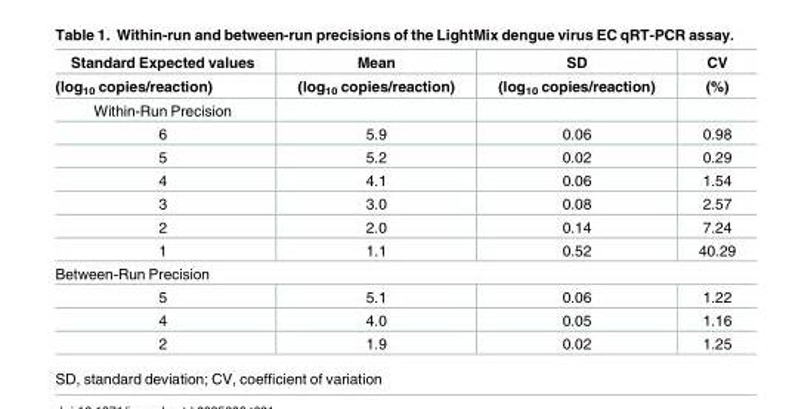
<table><thead><tr><td rowspan="2">Standard Expected values (log<sub>10</sub> copies/reaction)</td><td rowspan="2">Mean (log<sub>10</sub> copies/reaction)</td><td rowspan="2">SD (log<sub>10</sub> copies/reaction)</td><td rowspan="2">CV (%)</td></tr><tr></tr></thead><tbody><tr><td colspan="4">Within-Run Precision</td></tr><tr><td>6</td><td>5.9</td><td>0.06</td><td>0.98</td></tr><tr><td>5</td><td>5.2</td><td>0.02</td><td>0.29</td></tr><tr><td>4</td><td>4.1</td><td>0.06</td><td>1.54</td></tr><tr><td>3</td><td>3.0</td><td>0.08</td><td>2.57</td></tr><tr><td>2</td><td>2.0</td><td>0.14</td><td>7.24</td></tr><tr><td>1</td><td>1.1</td><td>0.52</td><td>40.29</td></tr><tr><td colspan="4">Between-Run Precision</td></tr><tr><td>5</td><td>5.1</td><td>0.06</td><td>1.22</td></tr><tr><td>4</td><td>4.0</td><td>0.05</td><td>1.16</td></tr><tr><td>2</td><td>1.9</td><td>0.02</td><td>1.25</td></tr></tbody></table>